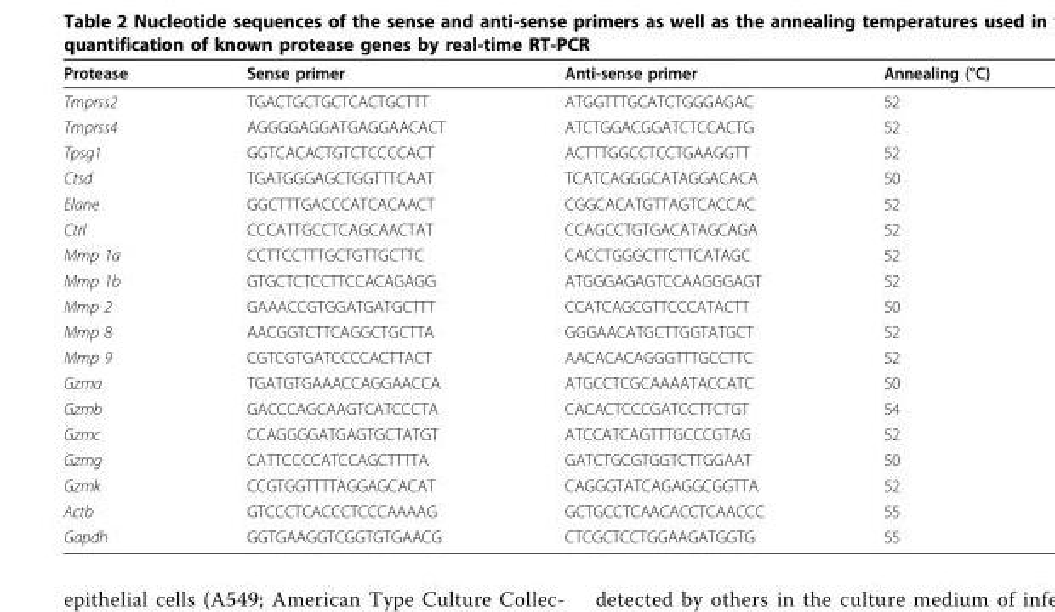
<table><thead><tr><td>Protease</td><td>Sense primer</td><td>Anti-sense primer</td><td>Annealing (°C)</td></tr></thead><tbody><tr><td>Tmprss2</td><td>TGACTGCTGCTCACTGCTTT</td><td>ATGGTTTGCATCTGGGAGAC</td><td>52</td></tr><tr><td>Tmprss4</td><td>AGGGGAGGATGAGGAACACT</td><td>ATCTGGACGGATCTCCACTG</td><td>52</td></tr><tr><td>Tpsg1</td><td>GGTCACACTGTCTCCCCACT</td><td>ACTTTGGCCTCCTGAAGGTT</td><td>52</td></tr><tr><td>Ctsd</td><td>TGATGGGAGCTGGTTTCAAT</td><td>TCATCAGGGCATAGGACACA</td><td>50</td></tr><tr><td>Elane</td><td>GGCTTTGACCCATCACAACT</td><td>CGGCACATGTTAGTCACCAC</td><td>52</td></tr><tr><td>Ctrl</td><td>CCCATTGCCTCAGCAACTAT</td><td>CCAGCCTGTGACATAGCAGA</td><td>52</td></tr><tr><td>Mmp 1a</td><td>CCTTCCTTTGCTGTTGCTTC</td><td>CACCTGGGCTTCTTCATAGC</td><td>52</td></tr><tr><td>Mmp 1b</td><td>GTGCTCTCCTTCCACAGAGG</td><td>ATGGGAGAGTCCAAGGGAGT</td><td>52</td></tr><tr><td>Mmp 2</td><td>GAAACCGTGGATGATGCTTT</td><td>CCATCAGCGTTCCCATACTT</td><td>50</td></tr><tr><td>Mmp 8</td><td>AACGGTCTTCAGGCTGCTTA</td><td>GGGAACATGCTTGGTATGCT</td><td>52</td></tr><tr><td>Mmp 9</td><td>CGTCGTGATCCCCACTTACT</td><td>AACACACAGGGTTTGCCTTC</td><td>52</td></tr><tr><td>Gzma</td><td>TGATGTGAAACCAGGAACCA</td><td>ATGCCTCGCAAAATACCATC</td><td>50</td></tr><tr><td>Gzmb</td><td>GACCCAGCAAGTCATCCCTA</td><td>CACACTCCCGATCCTTCTGT</td><td>54</td></tr><tr><td>Gzmc</td><td>CCAGGGGATGAGTGCTATGT</td><td>ATCCATCAGTTTGCCCGTAG</td><td>52</td></tr><tr><td>Gzmg</td><td>CATTCCCCATCCAGCTTTTA</td><td>GATCTGCGTGGTCTTGGAAT</td><td>50</td></tr><tr><td>Gzmk</td><td>CCGTGGTTTTAGGAGCACAT</td><td>CAGGGTATCAGAGGCGGTTA</td><td>52</td></tr><tr><td>Actb</td><td>GTCCCTCACCCTCCCAAAAG</td><td>GCTGCCTCAACACCTCAACCC</td><td>55</td></tr><tr><td>Gapdh</td><td>GGTGAAGGTCGGTGTGAACG</td><td>CTCGCTCCTGGAAGATGGTG</td><td>55</td></tr></tbody></table>